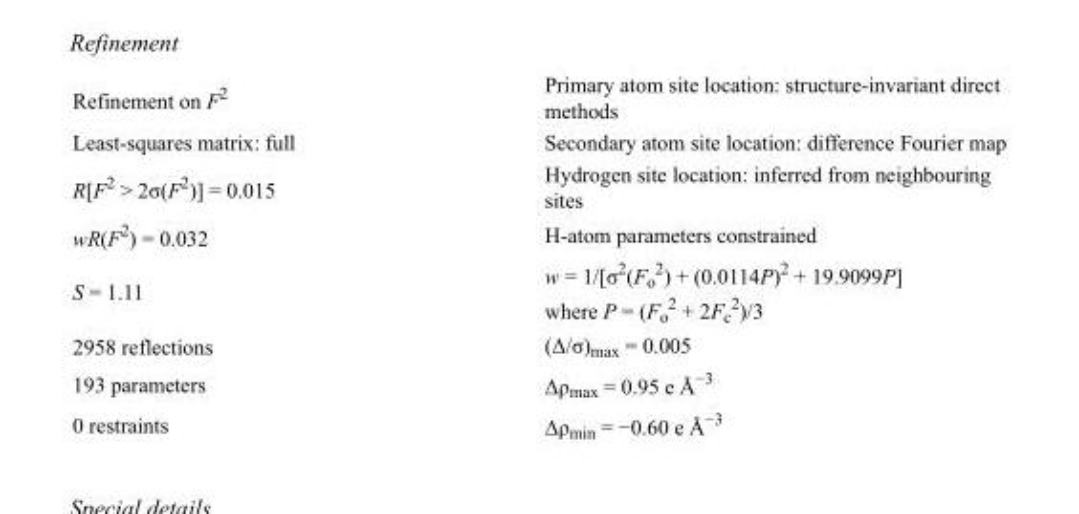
<table><tbody><tr><td>Refinement on F<sup>2</sup></td><td>Primary atom site location: structure-invariant direct methods</td></tr><tr><td>Least-squares matrix: full</td><td>Secondary atom site location: difference Fourier map</td></tr><tr><td>R[F<sup>2</sup> &gt; 2σ(F<sup>2</sup>)] = 0.015</td><td>Hydrogen site location: inferred from neighbouring sites</td></tr><tr><td>wR(F<sup>2</sup>) = 0.032</td><td>H-atom parameters constrained</td></tr><tr><td>S = 1.11</td><td>w = 1/[σ<sup>2</sup>(F<sub>o</sub> <sup>2</sup>) + (0.0114P)<sup>2</sup> + 19.9099P] where P = (F<sub>o</sub> <sup>2</sup> + 2F<sub>c</sub> <sup>2</sup>)/3</td></tr><tr><td>2958 reflections</td><td>(Δ/σ)<sub>max</sub> = 0.005</td></tr><tr><td>193 parameters</td><td>Δρ<sub>max</sub> = 0.95 e Å<sup>−3</sup></td></tr><tr><td>0 restraints</td><td>Δρ<sub>min</sub> = −0.60 e Å<sup>−3</sup></td></tr></tbody></table>